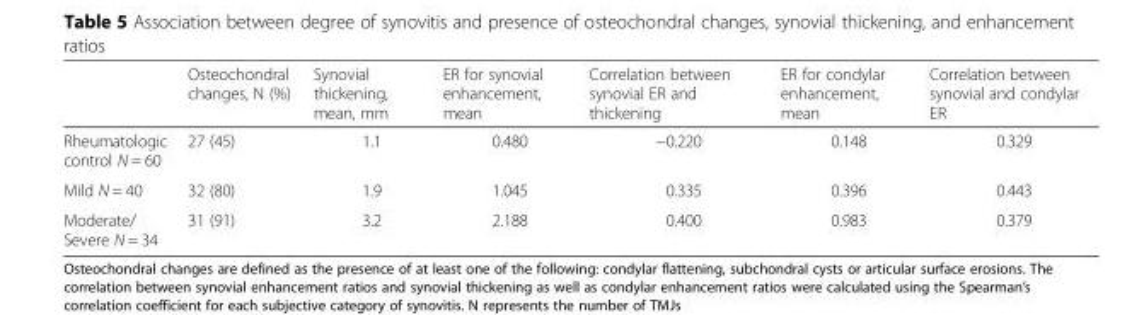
<table><thead><tr><td></td><td>Osteochondral changes, N (%)</td><td>Synovial thickening, mean, mm</td><td>ER for synovial enhancement, mean</td><td>Correlation between synovial ER and thickening</td><td>ER for condylar enhancement, mean</td><td>Correlation between synovial and condylar ER</td></tr></thead><tbody><tr><td>Rheumatologic control N = 60</td><td>27 (45)</td><td>1.1</td><td>0.480</td><td>−0.220</td><td>0.148</td><td>0.329</td></tr><tr><td>Mild N = 40</td><td>32 (80)</td><td>1.9</td><td>1.045</td><td>0.335</td><td>0.396</td><td>0.443</td></tr><tr><td>Moderate/ Severe N = 34</td><td>31 (91)</td><td>3.2</td><td>2.188</td><td>0.400</td><td>0.983</td><td>0.379</td></tr></tbody></table>